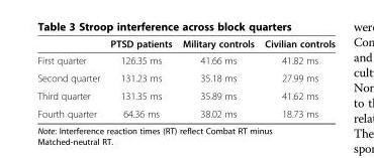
<table><thead><tr><td></td><td>PTSD patients</td><td>Military controls</td><td>Civilian controls</td></tr></thead><tbody><tr><td>First quarter</td><td>126.35 ms</td><td>41.66 ms</td><td>41.82 ms</td></tr><tr><td>Second quarter</td><td>131.23 ms</td><td>35.18 ms</td><td>27.99 ms</td></tr><tr><td>Third quarter</td><td>131.35 ms</td><td>35.89 ms</td><td>41.62 ms</td></tr><tr><td>Fourth quarter</td><td>64.36 ms</td><td>38.02 ms</td><td>18.73 ms</td></tr></tbody></table>